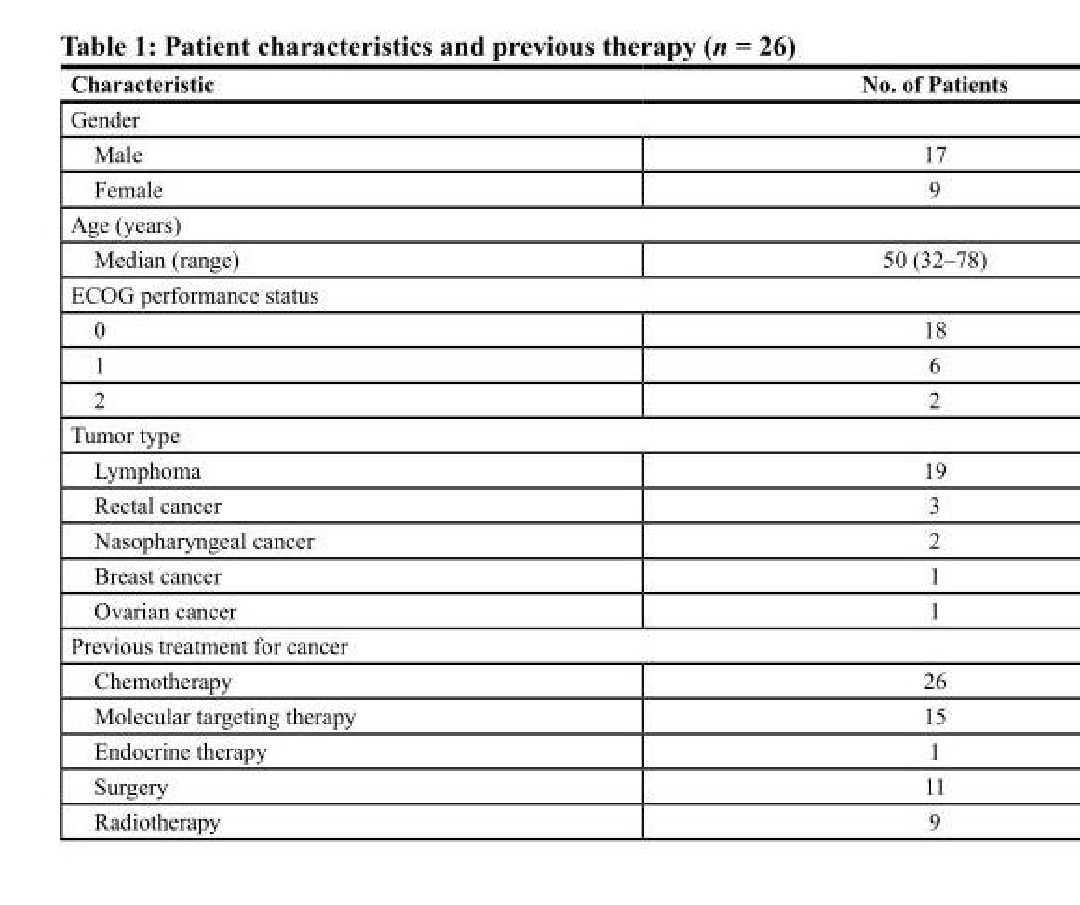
<table><thead><tr><td>Characteristic</td><td>No. of Patients</td></tr></thead><tbody><tr><td colspan="2">Gender</td></tr><tr><td>Male</td><td>17</td></tr><tr><td>Female</td><td>9</td></tr><tr><td colspan="2">Age (years)</td></tr><tr><td>Median (range)</td><td>50 (32–78)</td></tr><tr><td colspan="2">ECOG performance status</td></tr><tr><td>0</td><td>18</td></tr><tr><td>1</td><td>6</td></tr><tr><td>2</td><td>2</td></tr><tr><td colspan="2">Tumor type</td></tr><tr><td>Lymphoma</td><td>19</td></tr><tr><td>Rectal cancer</td><td>3</td></tr><tr><td>Nasopharyngeal cancer</td><td>2</td></tr><tr><td>Breast cancer</td><td>1</td></tr><tr><td>Ovarian cancer</td><td>1</td></tr><tr><td colspan="2">Previous treatment for cancer</td></tr><tr><td>Chemotherapy</td><td>26</td></tr><tr><td>Molecular targeting therapy</td><td>15</td></tr><tr><td>Endocrine therapy</td><td>1</td></tr><tr><td>Surgery</td><td>11</td></tr><tr><td>Radiotherapy</td><td>9</td></tr></tbody></table>